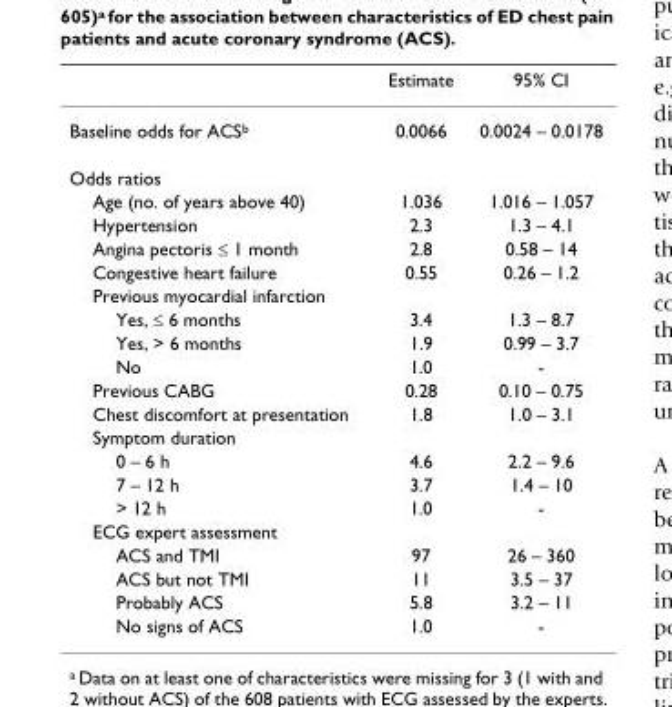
<table><thead><tr><td></td><td>Estimate</td><td>95% CI</td></tr></thead><tbody><tr><td>Baseline odds for ACS<sup>b</sup></td><td>0.0066</td><td>0.0024 – 0.0178</td></tr><tr><td colspan="3">Odds ratios</td></tr><tr><td>Age (no. of years above 40)</td><td>1.036</td><td>1.016 – 1.057</td></tr><tr><td>Hypertension</td><td>2.3</td><td>1.3 – 4.1</td></tr><tr><td>Angina pectoris ≤ 1 month</td><td>2.8</td><td>0.58 – 14</td></tr><tr><td>Congestive heart failure</td><td>0.55</td><td>0.26 – 1.2</td></tr><tr><td colspan="3">Previous myocardial infarction</td></tr><tr><td>Yes, ≤ 6 months</td><td>3.4</td><td>1.3 – 8.7</td></tr><tr><td>Yes, &gt; 6 months</td><td>1.9</td><td>0.99 – 3.7</td></tr><tr><td>No</td><td>1.0</td><td>-</td></tr><tr><td>Previous CABG</td><td>0.28</td><td>0.10 – 0.75</td></tr><tr><td>Chest discomfort at presentation</td><td>1.8</td><td>1.0 – 3.1</td></tr><tr><td colspan="3">Symptom duration</td></tr><tr><td>0 – 6 h</td><td>4.6</td><td>2.2 – 9.6</td></tr><tr><td>7 – 12 h</td><td>3.7</td><td>1.4 – 10</td></tr><tr><td>&gt; 12 h</td><td>1.0</td><td>-</td></tr><tr><td colspan="3">ECG expert assessment</td></tr><tr><td>ACS and TMI</td><td>97</td><td>26 – 360</td></tr><tr><td>ACS but not TMI</td><td>11</td><td>3.5 – 37</td></tr><tr><td>Probably ACS</td><td>5.8</td><td>3.2 – 11</td></tr><tr><td>No signs of ACS</td><td>1.0</td><td>-</td></tr></tbody></table>